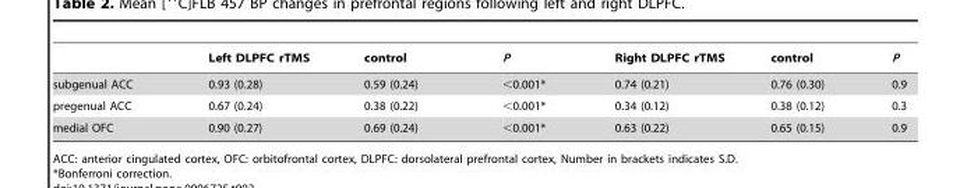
<table><thead><tr><td></td><td>Left DLPFC rTMS</td><td>control</td><td>P</td><td>Right DLPFC rTMS</td><td>control</td><td>P</td></tr></thead><tbody><tr><td>subgenual ACC</td><td>0.93 (0.28)</td><td>0.59 (0.24)</td><td>&lt;0.001*</td><td>0.74 (0.21)</td><td>0.76 (0.30)</td><td>0.9</td></tr><tr><td>pregenual ACC</td><td>0.67 (0.24)</td><td>0.38 (0.22)</td><td>&lt;0.001*</td><td>0.34 (0.12)</td><td>0.38 (0.12)</td><td>0.3</td></tr><tr><td>medial OFC</td><td>0.90 (0.27)</td><td>0.69 (0.24)</td><td>&lt;0.001*</td><td>0.63 (0.22)</td><td>0.65 (0.15)</td><td>0.9</td></tr></tbody></table>